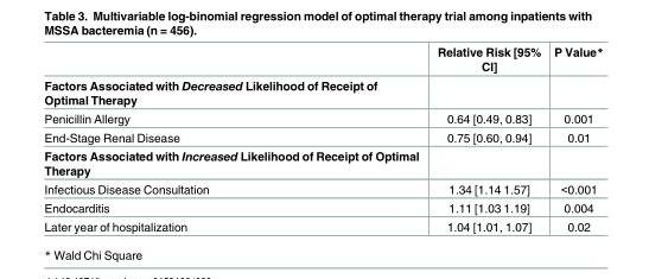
<table><thead><tr><td></td><td>Relative Risk [95% CI]</td><td>P Value*</td></tr></thead><tbody><tr><td colspan="3">Factors Associated with Decreased Likelihood of Receipt of Optimal Therapy</td></tr><tr><td>Penicillin Allergy</td><td>0.64 [0.49, 0.83]</td><td>0.001</td></tr><tr><td>End-Stage Renal Disease</td><td>0.75 [0.60, 0.94]</td><td>0.01</td></tr><tr><td colspan="3">Factors Associated with Increased Likelihood of Receipt of Optimal Therapy</td></tr><tr><td>Infectious Disease Consultation</td><td>1.34 [1.14 1.57]</td><td>&lt;0.001</td></tr><tr><td>Endocarditis</td><td>1.11 [1.03 1.19]</td><td>0.004</td></tr><tr><td>Later year of hospitalization</td><td>1.04 [1.01, 1.07]</td><td>0.02</td></tr></tbody></table>